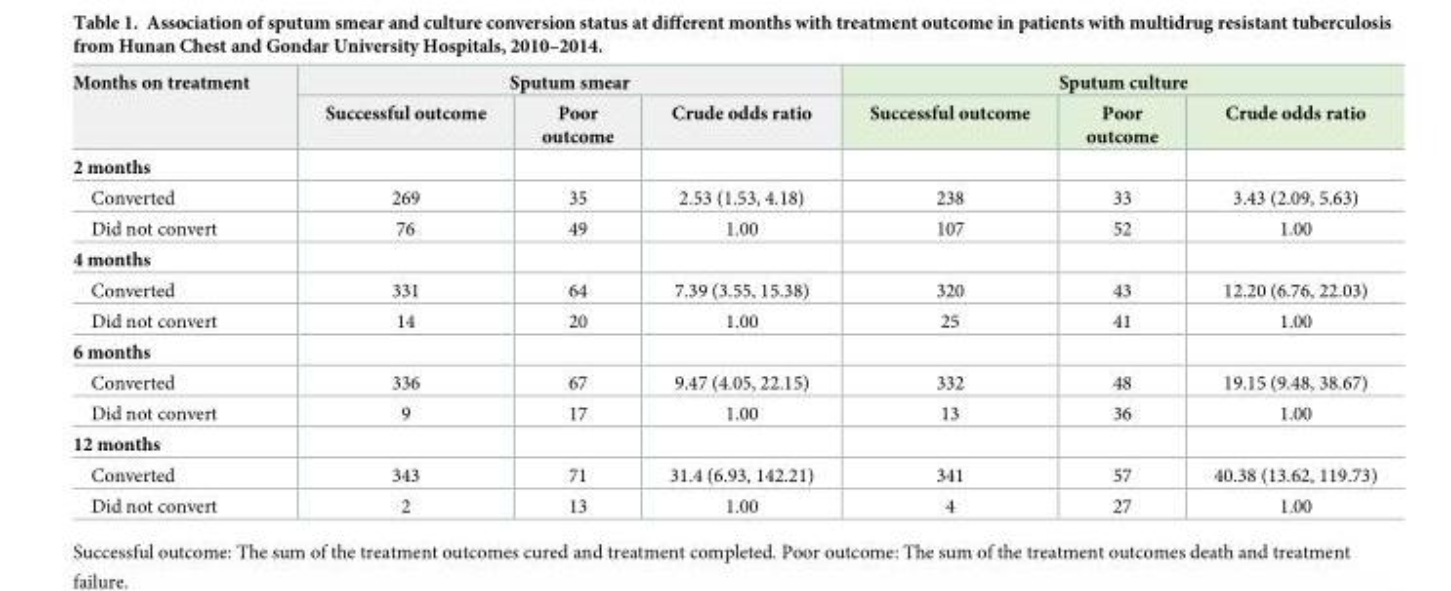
<table><thead><tr><td rowspan="2">Months on treatment</td><td colspan="3">Sputum smear</td><td colspan="3">Sputum culture</td></tr><tr><td>Successful outcome</td><td>Poor outcome</td><td>Crude odds ratio</td><td>Successful outcome</td><td>Poor outcome</td><td>Crude odds ratio</td></tr></thead><tbody><tr><td colspan="7">2 months</td></tr><tr><td>Converted</td><td>269</td><td>35</td><td>2.53 (1.53, 4.18)</td><td>238</td><td>33</td><td>3.43 (2.09, 5.63)</td></tr><tr><td>Did not convert</td><td>76</td><td>49</td><td>1.00</td><td>107</td><td>52</td><td>1.00</td></tr><tr><td colspan="7">4 months</td></tr><tr><td>Converted</td><td>331</td><td>64</td><td>7.39 (3.55, 15.38)</td><td>320</td><td>43</td><td>12.20 (6.76, 22.03)</td></tr><tr><td>Did not convert</td><td>14</td><td>20</td><td>1.00</td><td>25</td><td>41</td><td>1.00</td></tr><tr><td colspan="7">6 months</td></tr><tr><td>Converted</td><td>336</td><td>67</td><td>9.47 (4.05, 22.15)</td><td>332</td><td>48</td><td>19.15 (9.48, 38.67)</td></tr><tr><td>Did not convert</td><td>9</td><td>17</td><td>1.00</td><td>13</td><td>36</td><td>1.00</td></tr><tr><td colspan="7">12 months</td></tr><tr><td>Converted</td><td>343</td><td>71</td><td>31.4 (6.93, 142.21)</td><td>341</td><td>57</td><td>40.38 (13.62, 119.73)</td></tr><tr><td>Did not convert</td><td>2</td><td>13</td><td>1.00</td><td>4</td><td>27</td><td>1.00</td></tr></tbody></table>